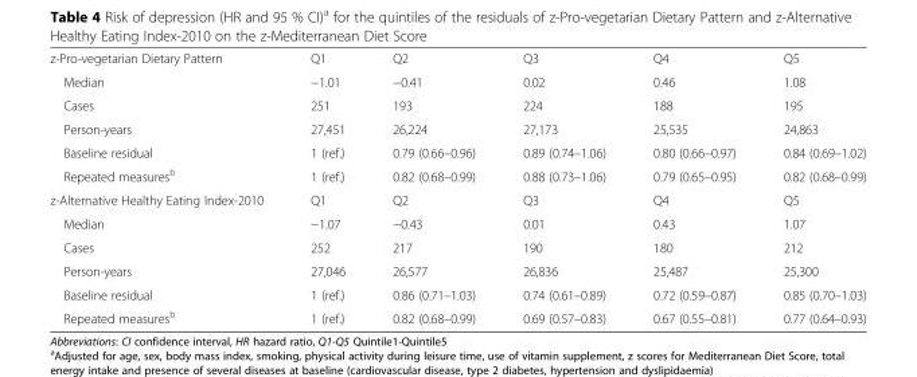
<table><tbody><tr><td>z-Pro-vegetarian Dietary Pattern</td><td>Q1</td><td>Q2</td><td>Q3</td><td>Q4</td><td>Q5</td></tr><tr><td>Median</td><td>−1.01</td><td>−0.41</td><td>0.02</td><td>0.46</td><td>1.08</td></tr><tr><td>Cases</td><td>251</td><td>193</td><td>224</td><td>188</td><td>195</td></tr><tr><td>Person-years</td><td>27,451</td><td>26,224</td><td>27,173</td><td>25,535</td><td>24,863</td></tr><tr><td>Baseline residual</td><td>1 (ref.)</td><td>0.79 (0.66–0.96)</td><td>0.89 (0.74–1.06)</td><td>0.80 (0.66–0.97)</td><td>0.84 (0.69–1.02)</td></tr><tr><td>Repeated measures<sup>b</sup></td><td>1 (ref.)</td><td>0.82 (0.68–0.99)</td><td>0.88 (0.73–1.06)</td><td>0.79 (0.65–0.95)</td><td>0.82 (0.68–0.99)</td></tr><tr><td>z-Alternative Healthy Eating Index-2010</td><td>Q1</td><td>Q2</td><td>Q3</td><td>Q4</td><td>Q5</td></tr><tr><td>Median</td><td>−1.07</td><td>−0.43</td><td>0.01</td><td>0.43</td><td>1.07</td></tr><tr><td>Cases</td><td>252</td><td>217</td><td>190</td><td>180</td><td>212</td></tr><tr><td>Person-years</td><td>27,046</td><td>26,577</td><td>26,836</td><td>25,487</td><td>25,300</td></tr><tr><td>Baseline residual</td><td>1 (ref.)</td><td>0.86 (0.71–1.03)</td><td>0.74 (0.61–0.89)</td><td>0.72 (0.59–0.87)</td><td>0.85 (0.70–1.03)</td></tr><tr><td>Repeated measures<sup>b</sup></td><td>1 (ref.)</td><td>0.82 (0.68–0.99)</td><td>0.69 (0.57–0.83)</td><td>0.67 (0.55–0.81)</td><td>0.77 (0.64–0.93)</td></tr></tbody></table>